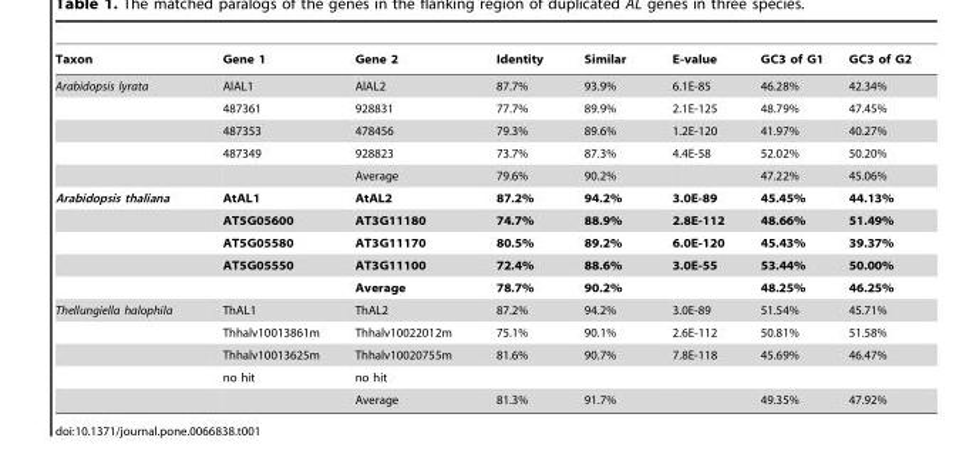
<table><thead><tr><td>Taxon</td><td>Gene 1</td><td>Gene 2</td><td>Identity</td><td>Similar</td><td>E-value</td><td>GC3 of G1</td><td>GC3 of G2</td></tr></thead><tbody><tr><td rowspan="5">Arabidopsis lyrata</td><td>AlAL1</td><td>AlAL2</td><td>87.7%</td><td>93.9%</td><td>6.1E-85</td><td>46.28%</td><td>42.34%</td></tr><tr><td>487361</td><td>928831</td><td>77.7%</td><td>89.9%</td><td>2.1E-125</td><td>48.79%</td><td>47.45%</td></tr><tr><td>487353</td><td>478456</td><td>79.3%</td><td>89.6%</td><td>1.2E-120</td><td>41.97%</td><td>40.27%</td></tr><tr><td>487349</td><td>928823</td><td>73.7%</td><td>87.3%</td><td>4.4E-58</td><td>52.02%</td><td>50.20%</td></tr><tr><td></td><td>Average</td><td>79.6%</td><td>90.2%</td><td></td><td>47.22%</td><td>45.06%</td></tr><tr><td rowspan="5">Arabidopsis thaliana</td><td>AtAL1</td><td>AtAL2</td><td>87.2%</td><td>94.2%</td><td>3.0E-89</td><td>45.45%</td><td>44.13%</td></tr><tr><td>AT5G05600</td><td>AT3G11180</td><td>74.7%</td><td>88.9%</td><td>2.8E-112</td><td>48.66%</td><td>51.49%</td></tr><tr><td>AT5G05580</td><td>AT3G11170</td><td>80.5%</td><td>89.2%</td><td>6.0E-120</td><td>45.43%</td><td>39.37%</td></tr><tr><td>AT5G05550</td><td>AT3G11100</td><td>72.4%</td><td>88.6%</td><td>3.0E-55</td><td>53.44%</td><td>50.00%</td></tr><tr><td></td><td>Average</td><td>78.7%</td><td>90.2%</td><td></td><td>48.25%</td><td>46.25%</td></tr><tr><td rowspan="5">Thellungiella halophila</td><td>ThAL1</td><td>ThAL2</td><td>87.2%</td><td>94.2%</td><td>3.0E-89</td><td>51.54%</td><td>45.71%</td></tr><tr><td>Thhalv10013861m</td><td>Thhalv10022012m</td><td>75.1%</td><td>90.1%</td><td>2.6E-112</td><td>50.81%</td><td>51.58%</td></tr><tr><td>Thhalv10013625m</td><td>Thhalv10020755m</td><td>81.6%</td><td>90.7%</td><td>7.8E-118</td><td>45.69%</td><td>46.47%</td></tr><tr><td>no hit</td><td>no hit</td><td></td><td></td><td></td><td></td><td></td></tr><tr><td></td><td>Average</td><td>81.3%</td><td>91.7%</td><td></td><td>49.35%</td><td>47.92%</td></tr></tbody></table>